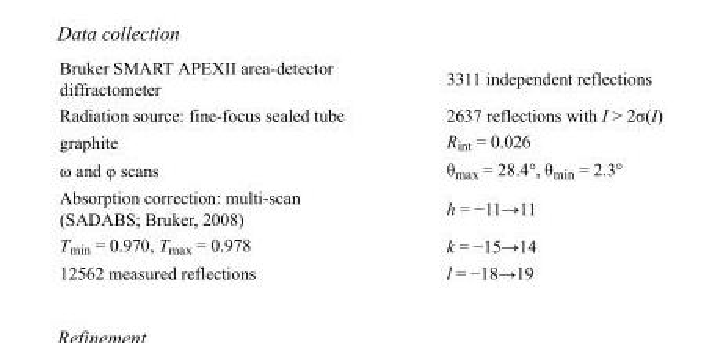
<table><tbody><tr><td>Bruker SMART APEXII area-detector diffractometer</td><td>3311 independent reflections</td></tr><tr><td>Radiation source: fine-focus sealed tube</td><td>2637 reflections with I &gt; 2σ(I)</td></tr><tr><td>graphite</td><td>R<sub>int</sub> = 0.026</td></tr><tr><td>ω and φ scans</td><td>θ<sub>max</sub> = 28.4°, θ<sub>min</sub> = 2.3°</td></tr><tr><td>Absorption correction: multi-scan (SADABS; Bruker, 2008)</td><td>h = −11→11</td></tr><tr><td>T<sub>min</sub> = 0.970, T<sub>max</sub> = 0.978</td><td>k = −15→14</td></tr><tr><td>12562 measured reflections</td><td>l = −18→19</td></tr></tbody></table>